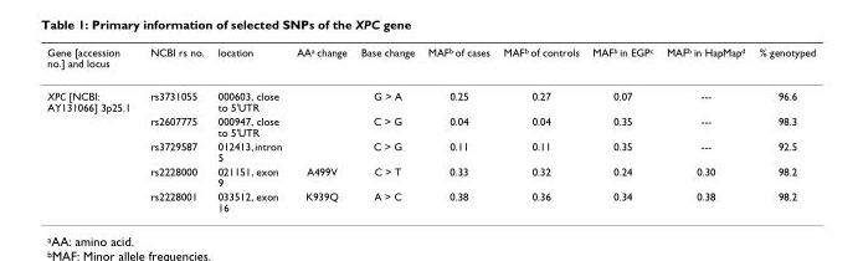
<table><thead><tr><td>Gene [accession no.] and locus</td><td>NCBI rs no.</td><td>location</td><td>AAa change</td><td>Base change</td><td>MAFb of cases</td><td>MAFb of controls</td><td>MAFb in EGPc</td><td>MAFb in HapMapd</td><td>% genotyped</td></tr></thead><tbody><tr><td rowspan="5">XPC [NCBI: AY131066] 3p25.1</td><td>rs3731055</td><td>000603, close to 5&#x27;UTR</td><td></td><td>G &gt; A</td><td>0.25</td><td>0.27</td><td>0.07</td><td>---</td><td>96.6</td></tr><tr><td>rs2607775</td><td>000947, close to 5&#x27;UTR</td><td></td><td>C &gt; G</td><td>0.04</td><td>0.04</td><td>0.35</td><td>---</td><td>98.3</td></tr><tr><td>rs3729587</td><td>012413, intron 5</td><td></td><td>C &gt; G</td><td>0.11</td><td>0.11</td><td>0.35</td><td>---</td><td>92.5</td></tr><tr><td>rs2228000</td><td>021151, exon 9</td><td>A499V</td><td>C &gt; T</td><td>0.33</td><td>0.32</td><td>0.24</td><td>0.30</td><td>98.2</td></tr><tr><td>rs2228001</td><td>033512, exon 16</td><td>K939Q</td><td>A &gt; C</td><td>0.38</td><td>0.36</td><td>0.34</td><td>0.38</td><td>98.2</td></tr></tbody></table>